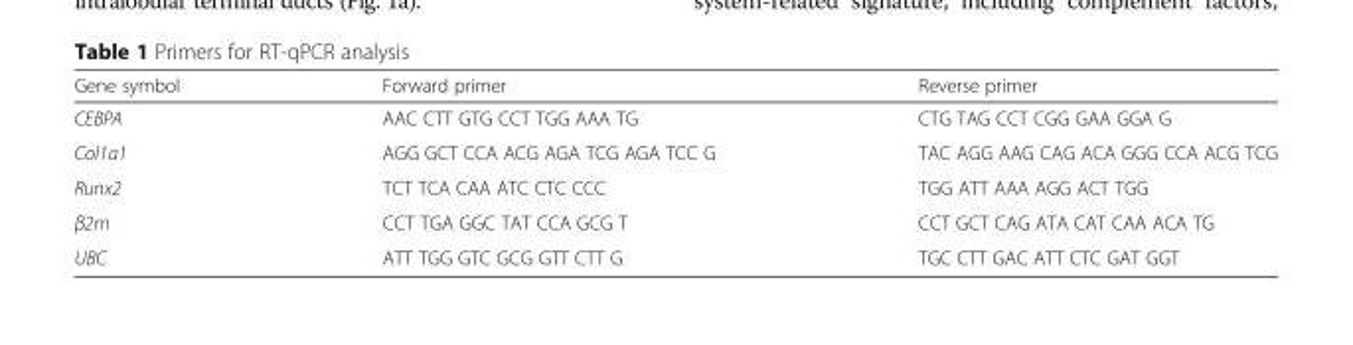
<table><thead><tr><td>Gene symbol</td><td>Forward primer</td><td>Reverse primer</td></tr></thead><tbody><tr><td>CEBPA</td><td>AAC CTT GTG CCT TGG AAA TG</td><td>CTG TAG CCT CGG GAA GGA G</td></tr><tr><td>Col1a1</td><td>AGG GCT CCA ACG AGA TCG AGA TCC G</td><td>TAC AGG AAG CAG ACA GGG CCA ACG TCG</td></tr><tr><td>Runx2</td><td>TCT TCA CAA ATC CTC CCC</td><td>TGG ATT AAA AGG ACT TGG</td></tr><tr><td>β2m</td><td>CCT TGA GGC TAT CCA GCG T</td><td>CCT GCT CAG ATA CAT CAA ACA TG</td></tr><tr><td>UBC</td><td>ATT TGG GTC GCG GTT CTT G</td><td>TGC CTT GAC ATT CTC GAT GGT</td></tr></tbody></table>